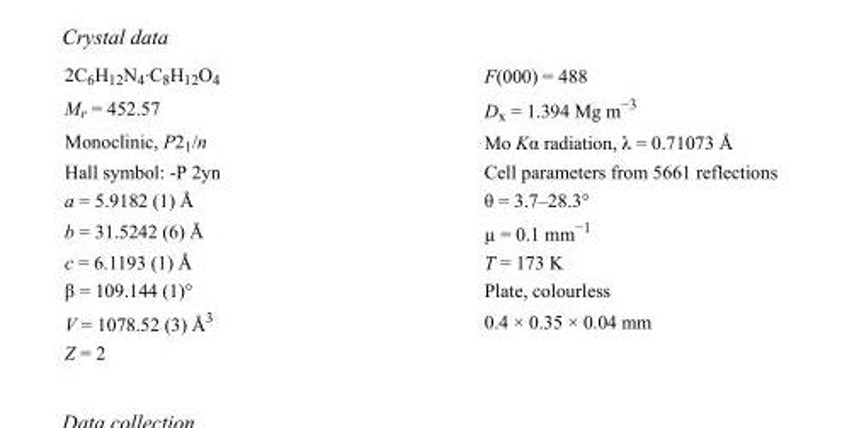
<table><tbody><tr><td>2C<sub>6</sub>H<sub>12</sub>N<sub>4</sub>·C<sub>8</sub>H<sub>12</sub>O<sub>4</sub></td><td>F(000) = 488</td></tr><tr><td>M<sub>r</sub> = 452.57</td><td>D<sub>x</sub> = 1.394 Mg m<sup>−3</sup></td></tr><tr><td>Monoclinic, P2<sub>1</sub>/n</td><td>Mo Kα radiation, λ = 0.71073 Å</td></tr><tr><td>Hall symbol: -P 2yn</td><td>Cell parameters from 5661 reflections</td></tr><tr><td>a = 5.9182 (1) Å</td><td>θ = 3.7–28.3°</td></tr><tr><td>b = 31.5242 (6) Å</td><td>µ = 0.1 mm<sup>−1</sup></td></tr><tr><td>c = 6.1193 (1) Å</td><td>T = 173 K</td></tr><tr><td>β = 109.144 (1)°</td><td>Plate, colourless</td></tr><tr><td>V = 1078.52 (3) Å<sup>3</sup></td><td>0.4 × 0.35 × 0.04 mm</td></tr><tr><td>Z = 2</td><td></td></tr></tbody></table>